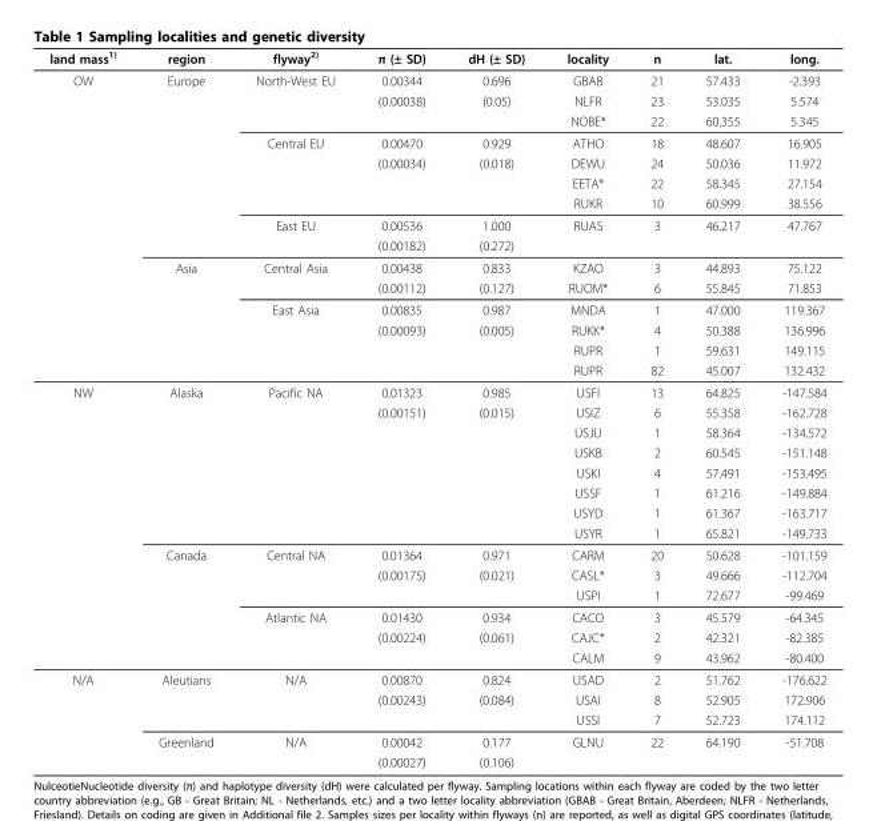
<table><thead><tr><td>land mass<sup>1)</sup></td><td>region</td><td>flyway<sup>2)</sup></td><td>π (± SD)</td><td>dH (± SD)</td><td>locality</td><td>n</td><td>lat.</td><td>long.</td></tr></thead><tbody><tr><td rowspan="15">OW</td><td>Europe</td><td>North-West EU</td><td>0.00344</td><td>0.696</td><td>GBAB</td><td>21</td><td>57.433</td><td>-2.393</td></tr><tr><td></td><td></td><td>(0.00038)</td><td>(0.05)</td><td>NLFR</td><td>23</td><td>53.035</td><td>5.574</td></tr><tr><td></td><td></td><td></td><td></td><td>NOBE*</td><td>22</td><td>60.355</td><td>5.345</td></tr><tr><td></td><td>Central EU</td><td>0.00470</td><td>0.929</td><td>ATHO</td><td>18</td><td>48.607</td><td>16.905</td></tr><tr><td></td><td></td><td>(0.00034)</td><td>(0.018)</td><td>DEWU</td><td>24</td><td>50.036</td><td>11.972</td></tr><tr><td></td><td></td><td></td><td></td><td>EETA*</td><td>22</td><td>58.345</td><td>27.154</td></tr><tr><td></td><td></td><td></td><td></td><td>RUKR</td><td>10</td><td>60.999</td><td>38.556</td></tr><tr><td></td><td>East EU</td><td>0.00536</td><td>1.000</td><td>RUAS</td><td>3</td><td>46.217</td><td>47.767</td></tr><tr><td></td><td></td><td>(0.00182)</td><td>(0.272)</td><td></td><td></td><td></td><td></td></tr><tr><td>Asia</td><td>Central Asia</td><td>0.00438</td><td>0.833</td><td>KZAO</td><td>3</td><td>44.893</td><td>75.122</td></tr><tr><td></td><td></td><td>(0.00112)</td><td>(0.127)</td><td>RUOM*</td><td>6</td><td>55.845</td><td>71.853</td></tr><tr><td></td><td>East Asia</td><td>0.00835</td><td>0.987</td><td>MNDA</td><td>1</td><td>47.000</td><td>119.367</td></tr><tr><td></td><td></td><td>(0.00093)</td><td>(0.005)</td><td>RUKK*</td><td>4</td><td>50.388</td><td>136.996</td></tr><tr><td></td><td></td><td></td><td></td><td>RUPR</td><td>1</td><td>59.631</td><td>149.115</td></tr><tr><td></td><td></td><td></td><td></td><td>RUPR</td><td>82</td><td>45.007</td><td>132.432</td></tr><tr><td rowspan="14">NW</td><td>Alaska</td><td>Pacific NA</td><td>0.01323</td><td>0.985</td><td>USFI</td><td>13</td><td>64.825</td><td>-147.584</td></tr><tr><td></td><td></td><td>(0.00151)</td><td>(0.015)</td><td>USIZ</td><td>6</td><td>55.358</td><td>-162.728</td></tr><tr><td></td><td></td><td></td><td></td><td>USJU</td><td>1</td><td>58.364</td><td>-134.572</td></tr><tr><td></td><td></td><td></td><td></td><td>USKB</td><td>2</td><td>60.545</td><td>-151.148</td></tr><tr><td></td><td></td><td></td><td></td><td>USKI</td><td>4</td><td>57.491</td><td>-153.495</td></tr><tr><td></td><td></td><td></td><td></td><td>USSF</td><td>1</td><td>61.216</td><td>-149.884</td></tr><tr><td></td><td></td><td></td><td></td><td>USYD</td><td>1</td><td>61.367</td><td>-163.717</td></tr><tr><td></td><td></td><td></td><td></td><td>USYR</td><td>1</td><td>65.821</td><td>-149.733</td></tr><tr><td>Canada</td><td>Central NA</td><td>0.01364</td><td>0.971</td><td>CARM</td><td>20</td><td>50.628</td><td>-101.159</td></tr><tr><td></td><td></td><td>(0.00175)</td><td>(0.021)</td><td>CASL*</td><td>3</td><td>49.666</td><td>-112.704</td></tr><tr><td></td><td></td><td></td><td></td><td>USPI</td><td>1</td><td>72.677</td><td>-99.469</td></tr><tr><td></td><td>Atlantic NA</td><td>0.01430</td><td>0.934</td><td>CACO</td><td>3</td><td>45.579</td><td>-64.345</td></tr><tr><td></td><td></td><td>(0.00224)</td><td>(0.061)</td><td>CAJC*</td><td>2</td><td>42.321</td><td>-82.385</td></tr><tr><td></td><td></td><td></td><td></td><td>CALM</td><td>9</td><td>43.962</td><td>-80.400</td></tr><tr><td rowspan="5">N/A</td><td>Aleutians</td><td>N/A</td><td>0.00870</td><td>0.824</td><td>USAD</td><td>2</td><td>51.762</td><td>-176.622</td></tr><tr><td></td><td></td><td>(0.00243)</td><td>(0.084)</td><td>USAI</td><td>8</td><td>52.905</td><td>172.906</td></tr><tr><td></td><td></td><td></td><td></td><td>USSI</td><td>7</td><td>52.723</td><td>174.112</td></tr><tr><td>Greenland</td><td>N/A</td><td>0.00042</td><td>0.177</td><td>GLNU</td><td>22</td><td>64.190</td><td>-51.708</td></tr><tr><td></td><td></td><td>(0.00027)</td><td>(0.106)</td><td></td><td></td><td></td><td></td></tr></tbody></table>